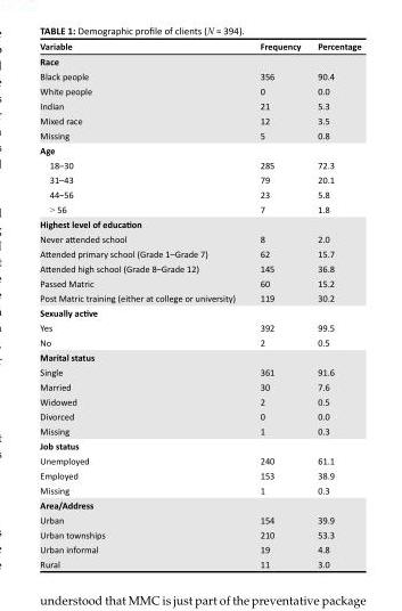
<table><thead><tr><td>Variable</td><td>Frequency</td><td>Percentage</td></tr></thead><tbody><tr><td colspan="3">Race</td></tr><tr><td>Black people</td><td>356</td><td>90.4</td></tr><tr><td>White people</td><td>0</td><td>0.0</td></tr><tr><td>Indian</td><td>21</td><td>5.3</td></tr><tr><td>Mixed race</td><td>12</td><td>3.5</td></tr><tr><td>Missing</td><td>5</td><td>0.8</td></tr><tr><td colspan="3">Age</td></tr><tr><td>18–30</td><td>285</td><td>72.3</td></tr><tr><td>31–43</td><td>79</td><td>20.1</td></tr><tr><td>44–56</td><td>23</td><td>5.8</td></tr><tr><td>&gt; 56</td><td>7</td><td>1.8</td></tr><tr><td colspan="3">Highest level of education</td></tr><tr><td>Never attended school</td><td>8</td><td>2.0</td></tr><tr><td>Attended primary school (Grade 1–Grade 7)</td><td>62</td><td>15.7</td></tr><tr><td>Attended high school (Grade 8–Grade 12)</td><td>145</td><td>36.8</td></tr><tr><td>Passed Matric</td><td>60</td><td>15.2</td></tr><tr><td>Post Matric training (either at college or university)</td><td>119</td><td>30.2</td></tr><tr><td colspan="3">Sexually active</td></tr><tr><td>Yes</td><td>392</td><td>99.5</td></tr><tr><td>No</td><td>2</td><td>0.5</td></tr><tr><td colspan="3">Marital status</td></tr><tr><td>Single</td><td>361</td><td>91.6</td></tr><tr><td>Married</td><td>30</td><td>7.6</td></tr><tr><td>Widowed</td><td>2</td><td>0.5</td></tr><tr><td>Divorced</td><td>0</td><td>0.0</td></tr><tr><td>Missing</td><td>1</td><td>0.3</td></tr><tr><td colspan="3">Job status</td></tr><tr><td>Unemployed</td><td>240</td><td>61.1</td></tr><tr><td>Employed</td><td>153</td><td>38.9</td></tr><tr><td>Missing</td><td>1</td><td>0.3</td></tr><tr><td colspan="3">Area/Address</td></tr><tr><td>Urban</td><td>154</td><td>39.9</td></tr><tr><td>Urban townships</td><td>210</td><td>53.3</td></tr><tr><td>Urban informal</td><td>19</td><td>4.8</td></tr><tr><td>Rural</td><td>11</td><td>3.0</td></tr></tbody></table>